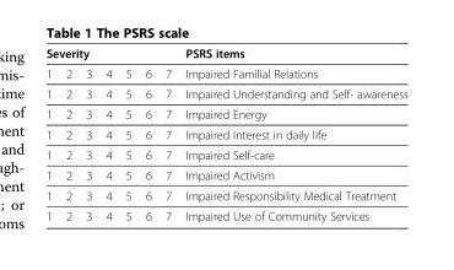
<table><thead><tr><td colspan="7">Severity</td><td rowspan="2">PSRS items Impaired Familial Relations</td></tr><tr><td>1</td><td>2</td><td>3</td><td>4</td><td>5</td><td>6</td><td>7</td></tr></thead><tbody><tr><td>1</td><td>2</td><td>3</td><td>4</td><td>5</td><td>6</td><td>7</td><td>Impaired Understanding and Self- awareness</td></tr><tr><td>1</td><td>2</td><td>3</td><td>4</td><td>5</td><td>6</td><td>7</td><td>Impaired Energy</td></tr><tr><td>1</td><td>2</td><td>3</td><td>4</td><td>5</td><td>6</td><td>7</td><td>Impaired Interest in daily life</td></tr><tr><td>1</td><td>2</td><td>3</td><td>4</td><td>5</td><td>6</td><td>7</td><td>Impaired Self-care</td></tr><tr><td>1</td><td>2</td><td>3</td><td>4</td><td>5</td><td>6</td><td>7</td><td>Impaired Activism</td></tr><tr><td>1</td><td>2</td><td>3</td><td>4</td><td>5</td><td>6</td><td>7</td><td>Impaired Responsibility Medical Treatment</td></tr><tr><td>1</td><td>2</td><td>3</td><td>4</td><td>5</td><td>6</td><td>7</td><td>Impaired Use of Community Services</td></tr></tbody></table>